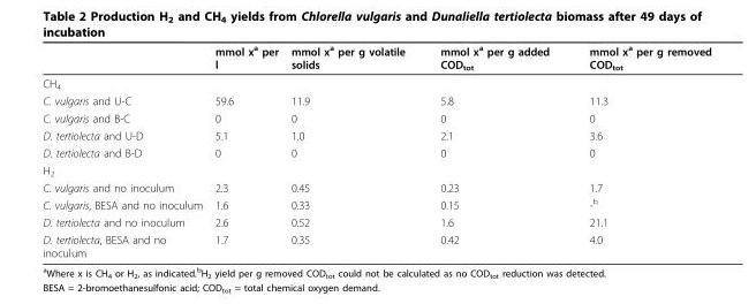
<table><thead><tr><td></td><td>mmol x<sup>a</sup> per l</td><td>mmol x<sup>a</sup> per g volatile solids</td><td>mmol x<sup>a</sup> per g added COD<sub>tot</sub></td><td>mmol x<sup>a</sup> per g removed COD<sub>tot</sub></td></tr></thead><tbody><tr><td colspan="5">CH<sub>4</sub></td></tr><tr><td>C. vulgaris and U-C</td><td>59.6</td><td>11.9</td><td>5.8</td><td>11.3</td></tr><tr><td>C. vulgaris and B-C</td><td>0</td><td>0</td><td>0</td><td>0</td></tr><tr><td>D. tertiolecta and U-D</td><td>5.1</td><td>1.0</td><td>2.1</td><td>3.6</td></tr><tr><td>D. tertiolecta and B-D</td><td>0</td><td>0</td><td>0</td><td>0</td></tr><tr><td colspan="5">H<sub>2</sub></td></tr><tr><td>C. vulgaris and no inoculum</td><td>2.3</td><td>0.45</td><td>0.23</td><td>1.7</td></tr><tr><td>C. vulgaris, BESA and no inoculum</td><td>1.6</td><td>0.33</td><td>0.15</td><td>-<sup>b</sup></td></tr><tr><td>D. tertiolecta and no inoculum</td><td>2.6</td><td>0.52</td><td>1.6</td><td>21.1</td></tr><tr><td>D. tertiolecta, BESA and no inoculum</td><td>1.7</td><td>0.35</td><td>0.42</td><td>4.0</td></tr></tbody></table>